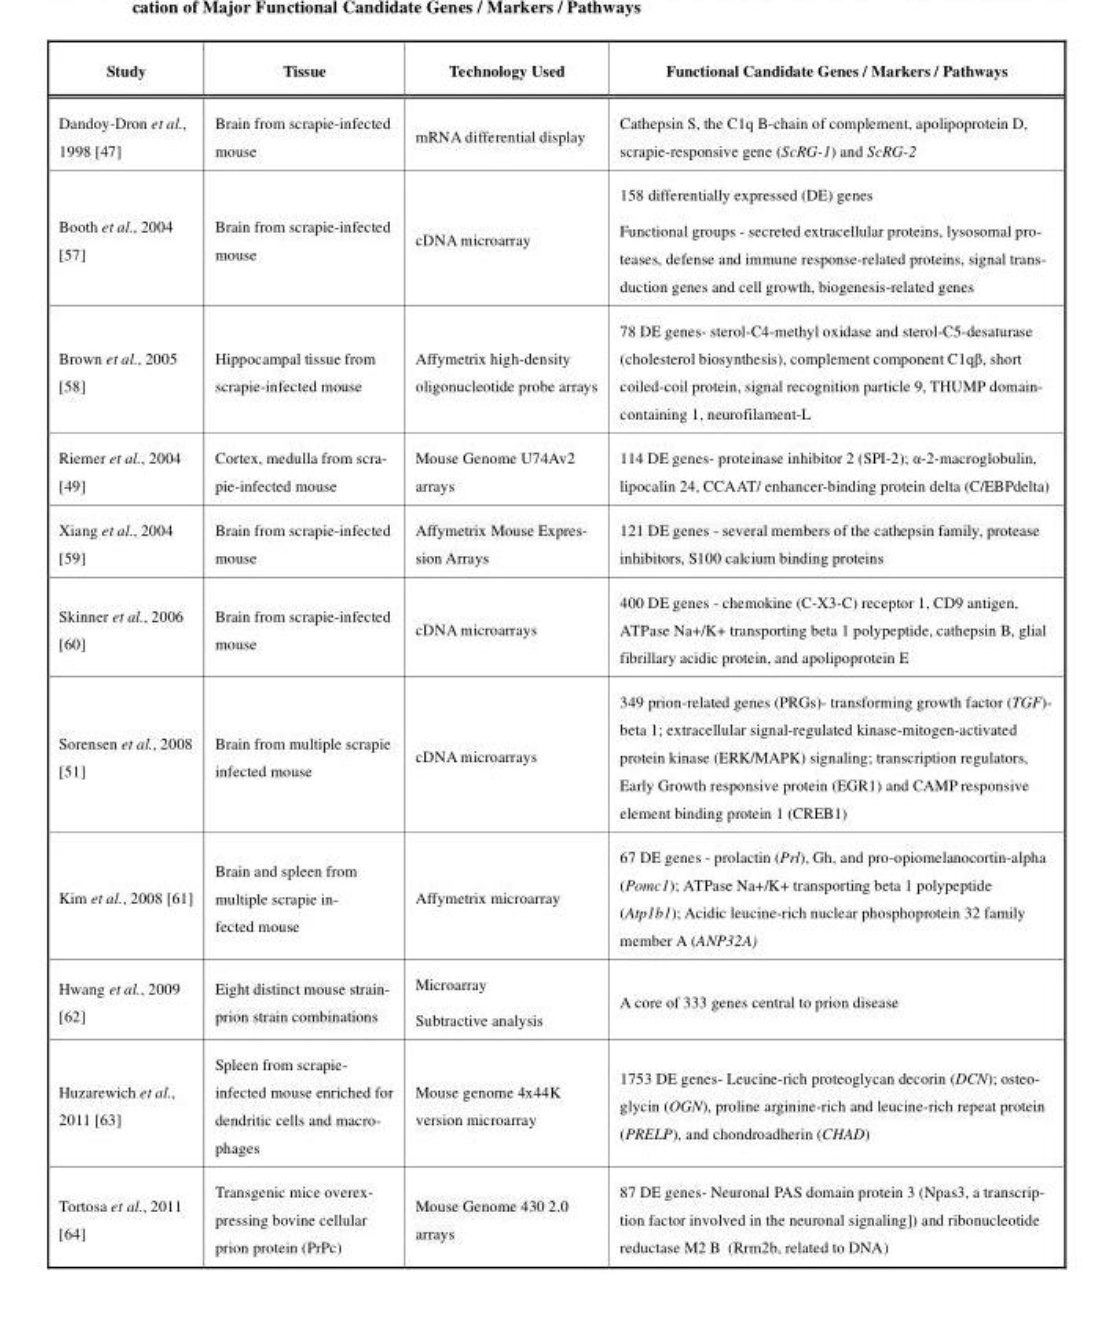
<table><thead><tr><td>Study</td><td>Tissue</td><td>Technology Used</td><td>Functional Candidate Genes / Markers / Pathways</td></tr></thead><tbody><tr><td>Dandoy-Dron et al., 1998 [47]</td><td>Brain from scrapie-infected mouse</td><td>mRNA differential display</td><td>Cathepsin S, the C1q B-chain of complement, apolipoprotein D, scrapie-responsive gene (ScRG-1) and ScRG-2</td></tr><tr><td>Booth et al., 2004 [57]</td><td>Brain from scrapie-infected mouse</td><td>cDNA microarray</td><td>158 differentially expressed (DE) genes Functional groups - secreted extracellular proteins, lysosomal pro- teases, defense and immune response-related proteins, signal trans- duction genes and cell growth, biogenesis-related genes</td></tr><tr><td>Brown et al., 2005 [58]</td><td>Hippocampal tissue from scrapie-infected mouse</td><td>Affymetrix high-density oligonucleotide probe arrays</td><td>78 DE genes- sterol-C4-methyl oxidase and sterol-C5-desaturase (cholesterol biosynthesis), complement component C1qβ, short coiled-coil protein, signal recognition particle 9, THUMP domain- containing 1, neurofilament-L</td></tr><tr><td>Riemer et al., 2004 [49]</td><td>Cortex, medulla from scra- pie-infected mouse</td><td>Mouse Genome U74Av2 arrays</td><td>114 DE genes- proteinase inhibitor 2 (SPI-2); α-2-macroglobulin, lipocalin 24, CCAAT/ enhancer-binding protein delta (C/EBPdelta)</td></tr><tr><td>Xiang et al., 2004 [59]</td><td>Brain from scrapie-infected mouse</td><td>Affymetrix Mouse Expres- sion Arrays</td><td>121 DE genes - several members of the cathepsin family, protease inhibitors, S100 calcium binding proteins</td></tr><tr><td>Skinner et al., 2006 [60]</td><td>Brain from scrapie-infected mouse</td><td>cDNA microarrays</td><td>400 DE genes - chemokine (C-X3-C) receptor 1, CD9 antigen, ATPase Na+/K+ transporting beta 1 polypeptide, cathepsin B, glial fibrillary acidic protein, and apolipoprotein E</td></tr><tr><td>Sorensen et al., 2008 [51]</td><td>Brain from multiple scrapie infected mouse</td><td>cDNA microarrays</td><td>349 prion-related genes (PRGs)- transforming growth factor (TGF)- beta 1; extracellular signal-regulated kinase-mitogen-activated protein kinase (ERK/MAPK) signaling; transcription regulators, Early Growth responsive protein (EGR1) and CAMP responsive element binding protein 1 (CREB1)</td></tr><tr><td>Kim et al., 2008 [61]</td><td>Brain and spleen from multiple scrapie in- fected mouse</td><td>Affymetrix microarray</td><td>67 DE genes - prolactin (Prl), Gh, and pro-opiomelanocortin-alpha (Pomc1); ATPase Na+/K+ transporting beta 1 polypeptide (Atp1b1); Acidic leucine-rich nuclear phosphoprotein 32 family member A (ANP32A)</td></tr><tr><td>Hwang et al., 2009 [62]</td><td>Eight distinct mouse strain- prion strain combinations</td><td>Microarray Subtractive analysis</td><td>A core of 333 genes central to prion disease</td></tr><tr><td>Huzarewich et al., 2011 [63]</td><td>Spleen from scrapie- infected mouse enriched for dendritic cells and macro- phages</td><td>Mouse genome 4x44K version microarray</td><td>1753 DE genes- Leucine-rich proteoglycan decorin (DCN); osteo- glycin (OGN), proline arginine-rich and leucine-rich repeat protein (PRELP), and chondroadherin (CHAD)</td></tr><tr><td>Tortosa et al., 2011 [64]</td><td>Transgenic mice overex- pressing bovine cellular prion protein (PrPc)</td><td>Mouse Genome 430 2.0 arrays</td><td>87 DE genes- Neuronal PAS domain protein 3 (Npas3, a transcrip- tion factor involved in the neuronal signaling]) and ribonucleotide reductase M2 B (Rrm2b, related to DNA)</td></tr></tbody></table>